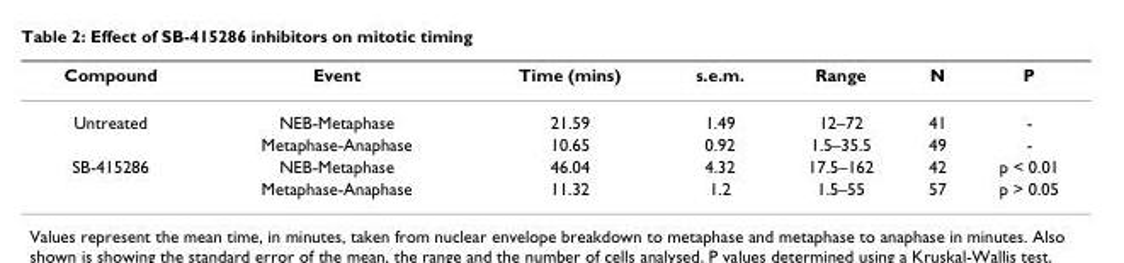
<table><thead><tr><td>Compound</td><td>Event</td><td>Time (mins)</td><td>s.e.m.</td><td>Range</td><td>N</td><td>P</td></tr></thead><tbody><tr><td rowspan="2">Untreated</td><td>NEB-Metaphase</td><td>21.59</td><td>1.49</td><td>12–72</td><td>41</td><td>-</td></tr><tr><td>Metaphase-Anaphase</td><td>10.65</td><td>0.92</td><td>1.5–35.5</td><td>49</td><td>-</td></tr><tr><td rowspan="2">SB-415286</td><td>NEB-Metaphase</td><td>46.04</td><td>4.32</td><td>17.5–162</td><td>42</td><td>p &lt; 0.01</td></tr><tr><td>Metaphase-Anaphase</td><td>11.32</td><td>1.2</td><td>1.5–55</td><td>57</td><td>p &gt; 0.05</td></tr></tbody></table>